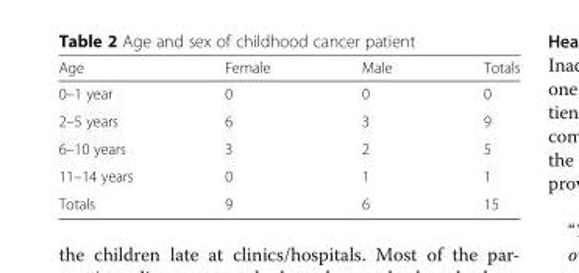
<table><thead><tr><td>Age</td><td>Female</td><td>Male</td><td>Totals</td></tr></thead><tbody><tr><td>0–1 year</td><td>0</td><td>0</td><td>0</td></tr><tr><td>2–5 years</td><td>6</td><td>3</td><td>9</td></tr><tr><td>6–10 years</td><td>3</td><td>2</td><td>5</td></tr><tr><td>11–14 years</td><td>0</td><td>1</td><td>1</td></tr><tr><td>Totals</td><td>9</td><td>6</td><td>15</td></tr></tbody></table>